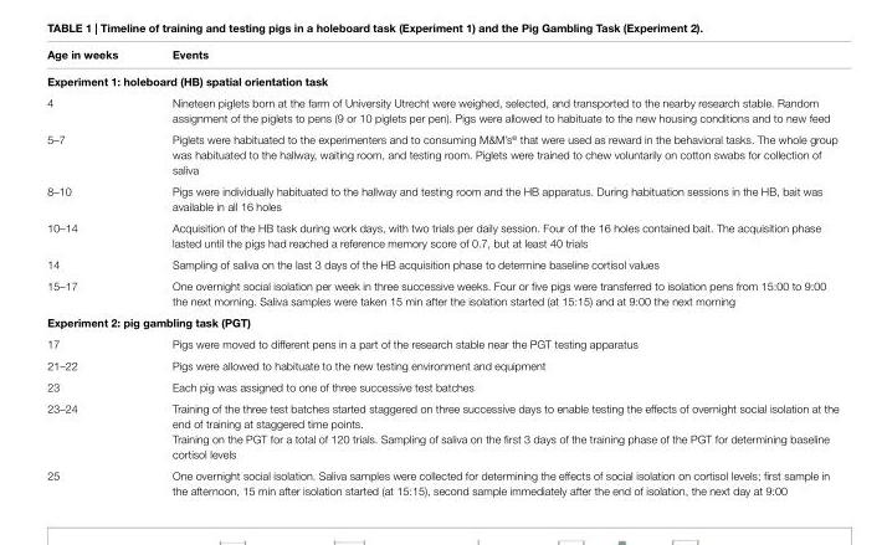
<table><thead><tr><td>age in weeks</td><td>events</td></tr></thead><tbody><tr><td colspan="2">experiment 1: holeboard (hB) spatial orientation task</td></tr><tr><td>4</td><td>Nineteen piglets born at the farm of University Utrecht were weighed, selected, and transported to the nearby research stable. Random assignment of the piglets to pens (9 or 10 piglets per pen). Pigs were allowed to habituate to the new housing conditions and to new feed</td></tr><tr><td>5–7</td><td>Piglets were habituated to the experimenters and to consuming M&amp;M’s<sup>®</sup> that were used as reward in the behavioral tasks. The whole group was habituated to the hallway, waiting room, and testing room. Piglets were trained to chew voluntarily on cotton swabs for collection of saliva</td></tr><tr><td>8–10</td><td>Pigs were individually habituated to the hallway and testing room and the HB apparatus. During habituation sessions in the HB, bait was available in all 16 holes</td></tr><tr><td>10–14</td><td>Acquisition of the HB task during work days, with two trials per daily session. Four of the 16 holes contained bait. The acquisition phase lasted until the pigs had reached a reference memory score of 0.7, but at least 40 trials</td></tr><tr><td>14</td><td>Sampling of saliva on the last 3 days of the HB acquisition phase to determine baseline cortisol values</td></tr><tr><td>15–17</td><td>One overnight social isolation per week in three successive weeks. Four or five pigs were transferred to isolation pens from 15:00 to 9:00 the next morning. Saliva samples were taken 15 min after the isolation started (at 15:15) and at 9:00 the next morning</td></tr><tr><td colspan="2">experiment 2: pig gambling task (PgT)</td></tr><tr><td>17</td><td>Pigs were moved to different pens in a part of the research stable near the PGT testing apparatus</td></tr><tr><td>21–22</td><td>Pigs were allowed to habituate to the new testing environment and equipment</td></tr><tr><td>23</td><td>Each pig was assigned to one of three successive test batches</td></tr><tr><td rowspan="2">23–24</td><td>Training of the three test batches started staggered on three successive days to enable testing the effects of overnight social isolation at the end of training at staggered time points.</td></tr><tr><td>Training on the PGT for a total of 120 trials. Sampling of saliva on the first 3 days of the training phase of the PGT for determining baseline cortisol levels</td></tr><tr><td>25</td><td>One overnight social isolation. Saliva samples were collected for determining the effects of social isolation on cortisol levels; first sample in the afternoon, 15 min after isolation started (at 15:15), second sample immediately after the end of isolation, the next day at 9:00</td></tr></tbody></table>